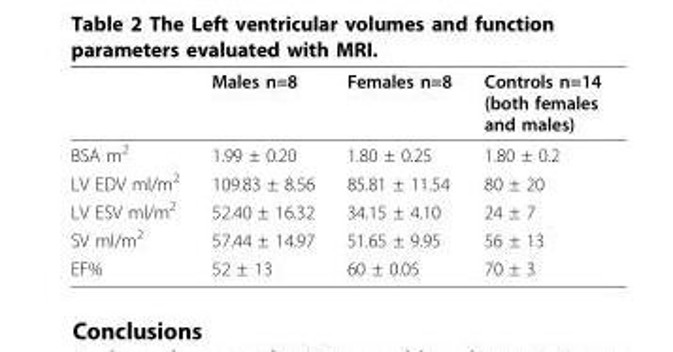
<table><thead><tr><td></td><td>Males n=8</td><td>Females n=8</td><td>Controls n=14 (both females and males)</td></tr></thead><tbody><tr><td>BSA m<sup>2</sup></td><td>1.99 ± 0.20</td><td>1.80 ± 0.25</td><td>1.80 ± 0.2</td></tr><tr><td>LV EDV ml/m<sup>2</sup></td><td>109.83 ± 8.56</td><td>85.81 ± 11.54</td><td>80 ± 20</td></tr><tr><td>LV ESV ml/m<sup>2</sup></td><td>52.40 ± 16.32</td><td>34.15 ± 4.10</td><td>24 ± 7</td></tr><tr><td>SV ml/m<sup>2</sup></td><td>57.44 ± 14.97</td><td>51.65 ± 9.95</td><td>56 ± 13</td></tr><tr><td>EF%</td><td>52 ± 13</td><td>60 ± 0.05</td><td>70 ± 3</td></tr></tbody></table>